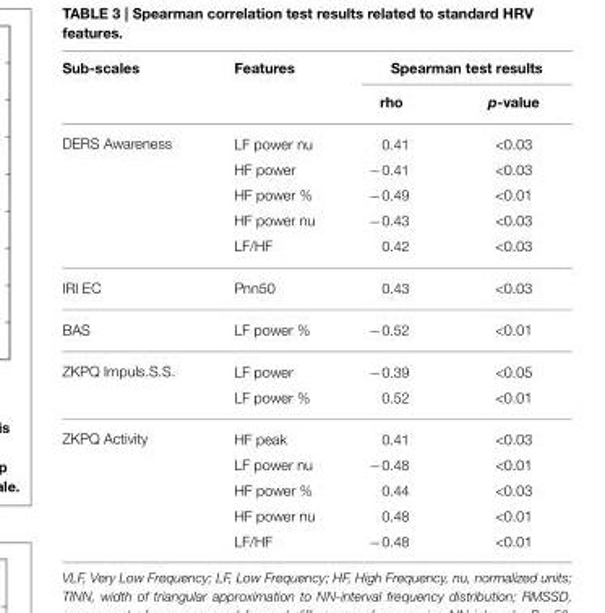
<table><thead><tr><td rowspan="2">Sub-scales</td><td rowspan="2">Features</td><td colspan="2">Spearman test results</td></tr><tr><td>rho</td><td>p-value</td></tr></thead><tbody><tr><td rowspan="5">DERS Awareness</td><td>LF power nu</td><td>0.41</td><td>&lt;0.03</td></tr><tr><td>HF power</td><td>−0.41</td><td>&lt;0.03</td></tr><tr><td>HF power %</td><td>−0.49</td><td>&lt;0.01</td></tr><tr><td>HF power nu</td><td>−0.43</td><td>&lt;0.03</td></tr><tr><td>LF/HF</td><td>0.42</td><td>&lt;0.03</td></tr><tr><td>IRI EC</td><td>Pnn50</td><td>0.43</td><td>&lt;0.03</td></tr><tr><td>BAS</td><td>LF power %</td><td>−0.52</td><td>&lt;0.01</td></tr><tr><td rowspan="2">ZKPQ Impuls.S.S.</td><td>LF power</td><td>−0.39</td><td>&lt;0.05</td></tr><tr><td>LF power %</td><td>0.52</td><td>&lt;0.01</td></tr><tr><td rowspan="5">ZKPQ Activity</td><td>HF peak</td><td>0.41</td><td>&lt;0.03</td></tr><tr><td>LF power nu</td><td>−0.48</td><td>&lt;0.01</td></tr><tr><td>HF power %</td><td>0.44</td><td>&lt;0.03</td></tr><tr><td>HF power nu</td><td>0.48</td><td>&lt;0.01</td></tr><tr><td>LF/HF</td><td>−0.48</td><td>&lt;0.01</td></tr></tbody></table>